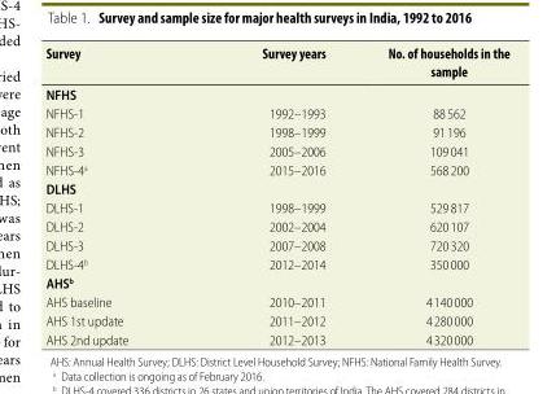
<table><thead><tr><td>Survey</td><td>Survey years</td><td>No. of households in the sample</td></tr></thead><tbody><tr><td colspan="3">NFHS</td></tr><tr><td>NFHS-1</td><td>1992–1993</td><td>88 562</td></tr><tr><td>NFHS-2</td><td>1998–1999</td><td>91 196</td></tr><tr><td>NFHS-3</td><td>2005–2006</td><td>109 041</td></tr><tr><td>NFHS-4<sup>a</sup></td><td>2015–2016</td><td>568 200</td></tr><tr><td colspan="3">DLHS</td></tr><tr><td>DLHS-1</td><td>1998–1999</td><td>529 817</td></tr><tr><td>DLHS-2</td><td>2002–2004</td><td>620 107</td></tr><tr><td>DLHS-3</td><td>2007–2008</td><td>720 320</td></tr><tr><td>DLHS-4<sup>b</sup></td><td>2012–2014</td><td>350 000</td></tr><tr><td colspan="3">AHS<sup>b</sup></td></tr><tr><td>AHS baseline</td><td>2010–2011</td><td>4 140 000</td></tr><tr><td>AHS 1st update</td><td>2011–2012</td><td>4 280 000</td></tr><tr><td>AHS 2nd update</td><td>2012–2013</td><td>4 320 000</td></tr></tbody></table>